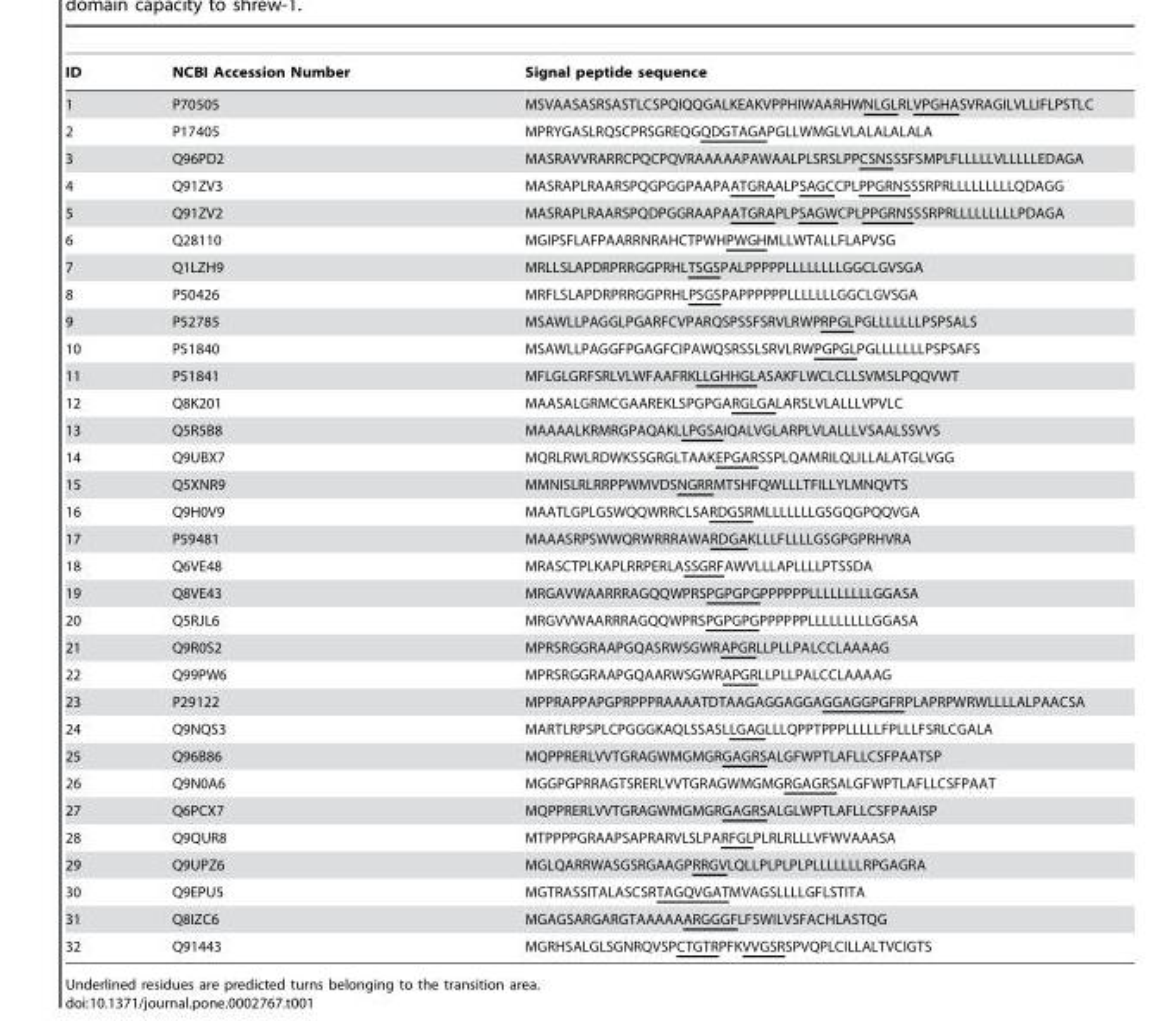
<table><thead><tr><td>ID</td><td>NCBI Accession Number</td><td>Signal peptide sequence</td></tr></thead><tbody><tr><td>1</td><td>P70505</td><td>MSVAASASRSASTLCSPQIQQGALKEAKVPPHIWAARHWNLGLRLVPGHASVRAGILVLLIFLPSTLC</td></tr><tr><td>2</td><td>P17405</td><td>MPRYGASLRQSCPRSGREQGQDGTAGAPGLLWMGLVLALALALALA</td></tr><tr><td>3</td><td>Q96PD2</td><td>MASRAVVRARRCPQCPQVRAAAAAPAWAALPLSRSLPPCSNSSSFSMPLFLLLLLVLLLLLEDAGA</td></tr><tr><td>4</td><td>Q91ZV3</td><td>MASRAPLRAARSPQGPGGPAAPAATGRAALPSAGCCPLPPGRNSSSRPRLLLLLLLLLQDAGG</td></tr><tr><td>5</td><td>Q91ZV2</td><td>MASRAPLRAARSPQDPGGRAAPAATGRAPLPSAGWCPLPPGRNSSSRPRLLLLLLLLLPDAGA</td></tr><tr><td>6</td><td>Q28110</td><td>MGIPSFLAFPAARRNRAHCTPWHPWGHMLLWTALLFLAPVSG</td></tr><tr><td>7</td><td>Q1LZH9</td><td>MRLLSLAPDRPRRGGPRHLTSGSPALPPPPPLLLLLLLLGGCLGVSGA</td></tr><tr><td>8</td><td>P50426</td><td>MRFLSLAPDRPRRGGPRHLPSGSPAPPPPPPLLLLLLLGGCLGVSGA</td></tr><tr><td>9</td><td>P52785</td><td>MSAWLLPAGGLPGARFCVPARQSPSSFSRVLRWPRPGLPGLLLLLLLPSPSALS</td></tr><tr><td>10</td><td>P51840</td><td>MSAWLLPAGGFPGAGFCIPAWQSRSSLSRVLRWPGPGLPGLLLLLLLPSPSAFS</td></tr><tr><td>11</td><td>P51841</td><td>MFLGLGRFSRLVLWFAAFRKLLGHHGLASAKFLWCLCLLSVMSLPQQVWT</td></tr><tr><td>12</td><td>Q8K201</td><td>MAASALGRMCGAAREKLSPGPGARGLGALARSLVLALLLVPVLC</td></tr><tr><td>13</td><td>Q5R5B8</td><td>MAAAALKRMRGPAQAKLLPGSAIQALVGLARPLVLALLLVSAALSSVVS</td></tr><tr><td>14</td><td>Q9UBX7</td><td>MQRLRWLRDWKSSGRGLTAAKEPGARSSPLQAMRILQLILLALATGLVGG</td></tr><tr><td>15</td><td>Q5XNR9</td><td>MMNISLRLRRPPWMVDSNGRRMTSHFQWLLLTFILLYLMNQVTS</td></tr><tr><td>16</td><td>Q9H0V9</td><td>MAATLGPLGSWQQWRRCLSARDGSRMLLLLLLLGSGQGPQQVGA</td></tr><tr><td>17</td><td>P59481</td><td>MAAASRPSWWQRWRRRAWARDGAKLLLFLLLLGSGPGPRHVRA</td></tr><tr><td>18</td><td>Q6VE48</td><td>MRASCTPLKAPLRRPERLASSGRFAWVLLLAPLLLLPTSSDA</td></tr><tr><td>19</td><td>Q8VE43</td><td>MRGAVWAARRRAGQQWPRSPGPGPGPPPPPPLLLLLLLLLGGASA</td></tr><tr><td>20</td><td>Q5RJL6</td><td>MRGVVWAARRRAGQQWPRSPGPGPGPPPPPPLLLLLLLLLGGASA</td></tr><tr><td>21</td><td>Q9R0S2</td><td>MPRSRGGRAAPGQASRWSGWRAPGRLLPLLPALCCLAAAAG</td></tr><tr><td>22</td><td>Q99PW6</td><td>MPRSRGGRAAPGQAARWSGWRAPGRLLPLLPALCCLAAAAG</td></tr><tr><td>23</td><td>P29122</td><td>MPPRAPPAPGPRPPPRAAAATDTAAGAGGAGGAGGAGGPGFRPLAPRPWRWLLLLALPAACSA</td></tr><tr><td>24</td><td>Q9NQS3</td><td>MARTLRPSPLCPGGGKAQLSSASLLGAGLLLQPPTPPPLLLLLFPLLLFSRLCGALA</td></tr><tr><td>25</td><td>Q96B86</td><td>MQPPRERLVVTGRAGWMGMGRGAGRSALGFWPTLAFLLCSFPAATSP</td></tr><tr><td>26</td><td>Q9N0A6</td><td>MGGPGPRRAGTSRERLVVTGRAGWMGMGRGAGRSALGFWPTLAFLLCSFPAAT</td></tr><tr><td>27</td><td>Q6PCX7</td><td>MQPPRERLVVTGRAGWMGMGRGAGRSALGLWPTLAFLLCSFPAAISP</td></tr><tr><td>28</td><td>Q9QUR8</td><td>MTPPPPGRAAPSAPRARVLSLPARFGLPLRLRLLLVFWVAAASA</td></tr><tr><td>29</td><td>Q9UPZ6</td><td>MGLQARRWASGSRGAAGPRRGVLQLLPLPLPLPLLLLLLLRPGAGRA</td></tr><tr><td>30</td><td>Q9EPU5</td><td>MGTRASSITALASCSRTAGQVGATMVAGSLLLLGFLSTITA</td></tr><tr><td>31</td><td>Q8IZC6</td><td>MGAGSARGARGTAAAAAARGGGFLFSWILVSFACHLASTQG</td></tr><tr><td>32</td><td>Q91443</td><td>MGRHSALGLSGNRQVSPCTGTRPFKVVGSRSPVQPLCILLALTVCIGTS</td></tr></tbody></table>